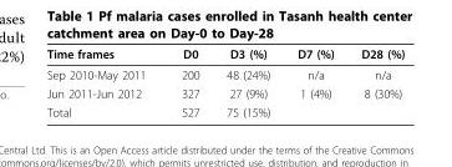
<table><thead><tr><td>Time frames</td><td>D0</td><td>D3 (%)</td><td>D7 (%)</td><td>D28 (%)</td></tr></thead><tbody><tr><td>Sep 2010-May 2011</td><td>200</td><td>48 (24%)</td><td>n/a</td><td>n/a</td></tr><tr><td>Jun 2011-Jun 2012</td><td>327</td><td>27 (9%)</td><td>1 (4%)</td><td>8 (30%)</td></tr><tr><td>Total</td><td>527</td><td>75 (15%)</td><td></td><td></td></tr></tbody></table>